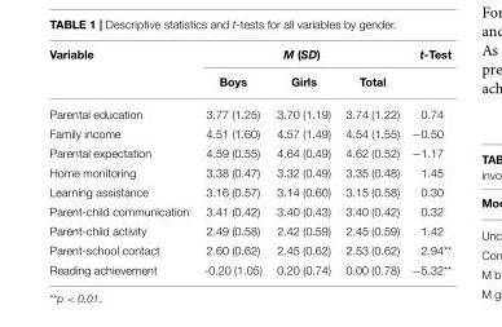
<table><thead><tr><td rowspan="2">Variable</td><td colspan="3">M (SD)</td><td rowspan="2">t-Test</td></tr><tr><td>Boys</td><td>Girls</td><td>Total</td></tr></thead><tbody><tr><td>Parental education</td><td>3.77 (1.25)</td><td>3.70 (1.19)</td><td>3.74 (1.22)</td><td>0.74</td></tr><tr><td>Family income</td><td>4.51 (1.60)</td><td>4.57 (1.49)</td><td>4.54 (1.55)</td><td>−0.50</td></tr><tr><td>Parental expectation</td><td>4.59 (0.55)</td><td>4.64 (0.49)</td><td>4.62 (0.52)</td><td>−1.17</td></tr><tr><td>Home monitoring</td><td>3.38 (0.47)</td><td>3.32 (0.49)</td><td>3.35 (0.48)</td><td>1.45</td></tr><tr><td>Learning assistance</td><td>3.16 (0.57)</td><td>3.14 (0.60)</td><td>3.15 (0.58)</td><td>0.30</td></tr><tr><td>Parent-child communication</td><td>3.41 (0.42)</td><td>3.40 (0.43)</td><td>3.40 (0.42)</td><td>0.32</td></tr><tr><td>Parent-child activity</td><td>2.49 (0.58)</td><td>2.42 (0.59)</td><td>2.45 (0.59)</td><td>1.42</td></tr><tr><td>Parent-school contact</td><td>2.60 (0.62)</td><td>2.45 (0.62)</td><td>2.53 (0.62)</td><td>2.94**</td></tr><tr><td>Reading achievement</td><td>-0.20 (1.05)</td><td>0.20 (0.74)</td><td>0.00 (0.78)</td><td>−5.32**</td></tr></tbody></table>